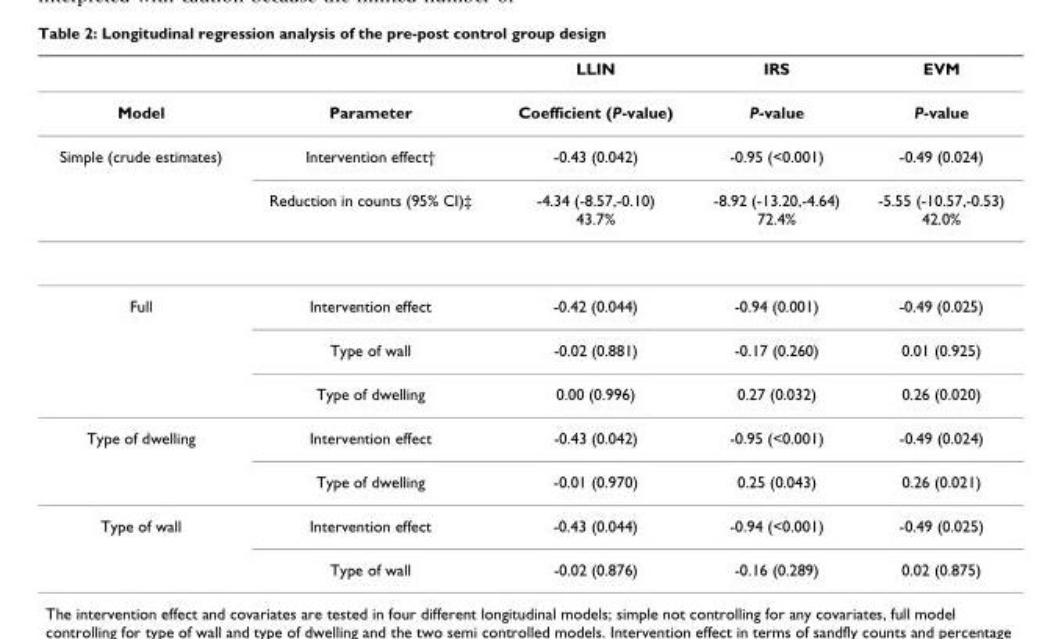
<table><thead><tr><td></td><td></td><td>LLIN</td><td>IRS</td><td>EVM</td></tr></thead><tbody><tr><td>Model</td><td>Parameter</td><td>Coefficient (P-value)</td><td>P-value</td><td>P-value</td></tr><tr><td rowspan="2">Simple (crude estimates)</td><td>Intervention effect†</td><td>-0.43 (0.042)</td><td>-0.95 (&lt;0.001)</td><td>-0.49 (0.024)</td></tr><tr><td>Reduction in counts (95% CI)‡</td><td>-4.34 (-8.57,-0.10) 43.7%</td><td>-8.92 (-13.20,-4.64) 72.4%</td><td>-5.55 (-10.57,-0.53) 42.0%</td></tr><tr><td rowspan="3">Full</td><td>Intervention effect</td><td>-0.42 (0.044)</td><td>-0.94 (0.001)</td><td>-0.49 (0.025)</td></tr><tr><td>Type of wall</td><td>-0.02 (0.881)</td><td>-0.17 (0.260)</td><td>0.01 (0.925)</td></tr><tr><td>Type of dwelling</td><td>0.00 (0.996)</td><td>0.27 (0.032)</td><td>0.26 (0.020)</td></tr><tr><td rowspan="2">Type of dwelling</td><td>Intervention effect</td><td>-0.43 (0.042)</td><td>-0.95 (&lt;0.001)</td><td>-0.49 (0.024)</td></tr><tr><td>Type of dwelling</td><td>-0.01 (0.970)</td><td>0.25 (0.043)</td><td>0.26 (0.021)</td></tr><tr><td rowspan="2">Type of wall</td><td>Intervention effect</td><td>-0.43 (0.044)</td><td>-0.94 (&lt;0.001)</td><td>-0.49 (0.025)</td></tr><tr><td>Type of wall</td><td>-0.02 (0.876)</td><td>-0.16 (0.289)</td><td>0.02 (0.875)</td></tr></tbody></table>